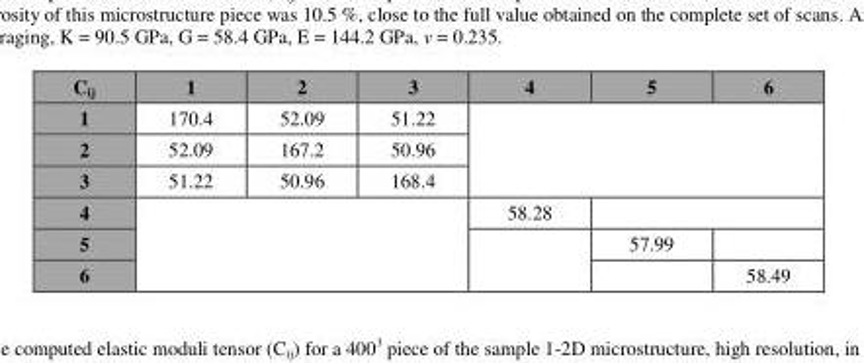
<table><thead><tr><td>C<sub>ij</sub></td><td>1</td><td>2</td><td>3</td><td>4</td><td>5</td><td>6</td></tr></thead><tbody><tr><td>1</td><td>170.4</td><td>52.09</td><td>51.22</td><td rowspan="3" colspan="3"></td></tr><tr><td>2</td><td>52.09</td><td>167.2</td><td>50.96</td></tr><tr><td>3</td><td>51.22</td><td>50.96</td><td>168.4</td></tr><tr><td>4</td><td rowspan="3" colspan="3"></td><td>58.28</td><td colspan="2"></td></tr><tr><td>5</td><td rowspan="2"></td><td>57.99</td><td></td></tr><tr><td>6</td><td></td><td>58.49</td></tr></tbody></table>